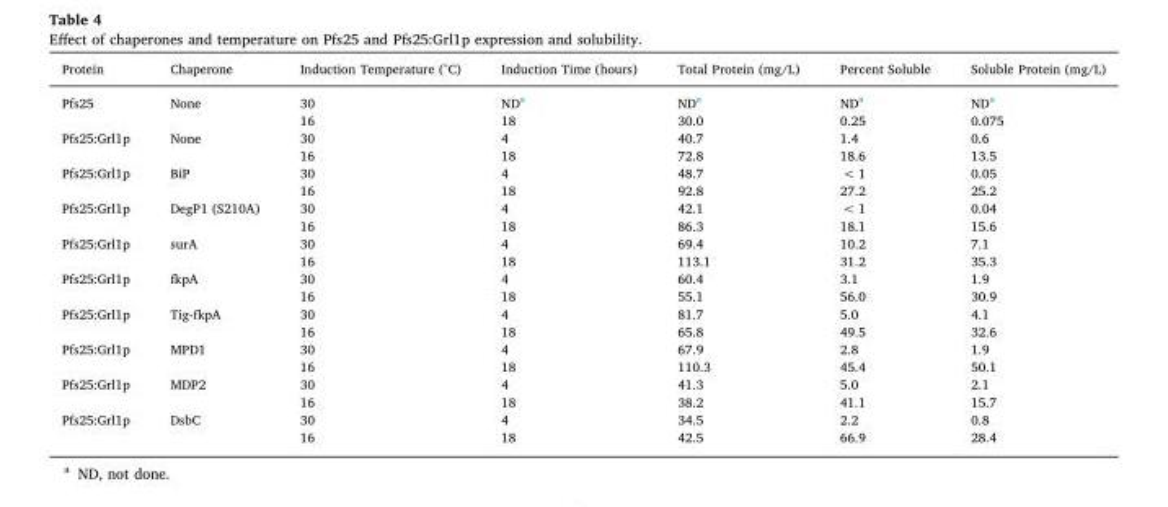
<table><thead><tr><td>Protein</td><td>Chaperone</td><td>Induction Temperature (°C)</td><td>Induction Time (hours)</td><td>Total Protein (mg/L)</td><td>Percent Soluble</td><td>Soluble Protein (mg/L)</td></tr></thead><tbody><tr><td rowspan="2">Pfs25</td><td rowspan="2">None</td><td>30</td><td>ND<sup>a</sup></td><td>ND<sup>a</sup></td><td>ND<sup>a</sup></td><td>ND<sup>a</sup></td></tr><tr><td>16</td><td>18</td><td>30.0</td><td>0.25</td><td>0.075</td></tr><tr><td rowspan="2">Pfs25:Grl1p</td><td rowspan="2">None</td><td>30</td><td>4</td><td>40.7</td><td>1.4</td><td>0.6</td></tr><tr><td>16</td><td>18</td><td>72.8</td><td>18.6</td><td>13.5</td></tr><tr><td rowspan="2">Pfs25:Grl1p</td><td rowspan="2">BiP</td><td>30</td><td>4</td><td>48.7</td><td>&lt; 1</td><td>0.05</td></tr><tr><td>16</td><td>18</td><td>92.8</td><td>27.2</td><td>25.2</td></tr><tr><td rowspan="2">Pfs25:Grl1p</td><td rowspan="2">DegP1 (S210A)</td><td>30</td><td>4</td><td>42.1</td><td>&lt; 1</td><td>0.04</td></tr><tr><td>16</td><td>18</td><td>86.3</td><td>18.1</td><td>15.6</td></tr><tr><td rowspan="2">Pfs25:Grl1p</td><td rowspan="2">surA</td><td>30</td><td>4</td><td>69.4</td><td>10.2</td><td>7.1</td></tr><tr><td>16</td><td>18</td><td>113.1</td><td>31.2</td><td>35.3</td></tr><tr><td rowspan="2">Pfs25:Grl1p</td><td rowspan="2">fkpA</td><td>30</td><td>4</td><td>60.4</td><td>3.1</td><td>1.9</td></tr><tr><td>16</td><td>18</td><td>55.1</td><td>56.0</td><td>30.9</td></tr><tr><td rowspan="2">Pfs25:Grl1p</td><td rowspan="2">Tig-fkpA</td><td>30</td><td>4</td><td>81.7</td><td>5.0</td><td>4.1</td></tr><tr><td>16</td><td>18</td><td>65.8</td><td>49.5</td><td>32.6</td></tr><tr><td rowspan="2">Pfs25:Grl1p</td><td rowspan="2">MPD1</td><td>30</td><td>4</td><td>67.9</td><td>2.8</td><td>1.9</td></tr><tr><td>16</td><td>18</td><td>110.3</td><td>45.4</td><td>50.1</td></tr><tr><td rowspan="2">Pfs25:Grl1p</td><td rowspan="2">MDP2</td><td>30</td><td>4</td><td>41.3</td><td>5.0</td><td>2.1</td></tr><tr><td>16</td><td>18</td><td>38.2</td><td>41.1</td><td>15.7</td></tr><tr><td rowspan="2">Pfs25:Grl1p</td><td rowspan="2">DsbC</td><td>30</td><td>4</td><td>34.5</td><td>2.2</td><td>0.8</td></tr><tr><td>16</td><td>18</td><td>42.5</td><td>66.9</td><td>28.4</td></tr></tbody></table>